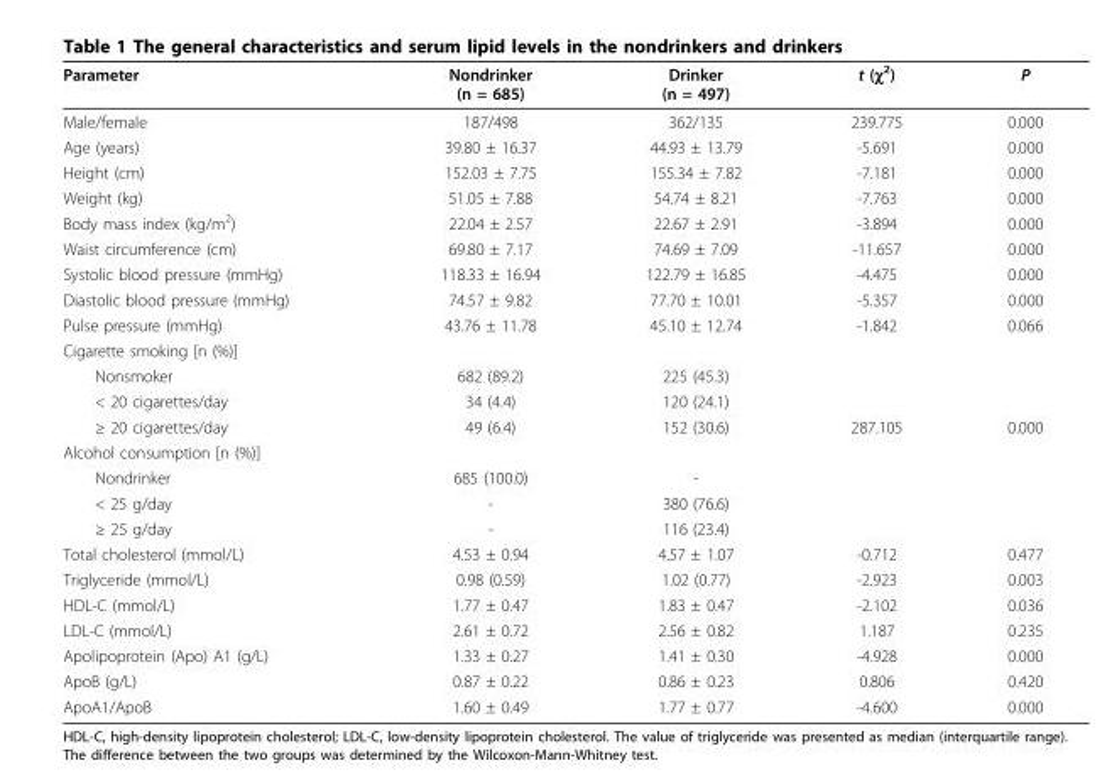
<table><thead><tr><td>Parameter</td><td>Nondrinker (n = 685)</td><td>Drinker (n = 497)</td><td>t (χ<sup>2</sup>)</td><td>P</td></tr></thead><tbody><tr><td>Male/female</td><td>187/498</td><td>362/135</td><td>239.775</td><td>0.000</td></tr><tr><td>Age (years)</td><td>39.80 ± 16.37</td><td>44.93 ± 13.79</td><td>-5.691</td><td>0.000</td></tr><tr><td>Height (cm)</td><td>152.03 ± 7.75</td><td>155.34 ± 7.82</td><td>-7.181</td><td>0.000</td></tr><tr><td>Weight (kg)</td><td>51.05 ± 7.88</td><td>54.74 ± 8.21</td><td>-7.763</td><td>0.000</td></tr><tr><td>Body mass index (kg/m<sup>2</sup>)</td><td>22.04 ± 2.57</td><td>22.67 ± 2.91</td><td>-3.894</td><td>0.000</td></tr><tr><td>Waist circumference (cm)</td><td>69.80 ± 7.17</td><td>74.69 ± 7.09</td><td>-11.657</td><td>0.000</td></tr><tr><td>Systolic blood pressure (mmHg)</td><td>118.33 ± 16.94</td><td>122.79 ± 16.85</td><td>-4.475</td><td>0.000</td></tr><tr><td>Diastolic blood pressure (mmHg)</td><td>74.57 ± 9.82</td><td>77.70 ± 10.01</td><td>-5.357</td><td>0.000</td></tr><tr><td>Pulse pressure (mmHg)</td><td>43.76 ± 11.78</td><td>45.10 ± 12.74</td><td>-1.842</td><td>0.066</td></tr><tr><td colspan="5">Cigarette smoking [n (%)]</td></tr><tr><td>Nonsmoker</td><td>682 (89.2)</td><td>225 (45.3)</td><td></td><td></td></tr><tr><td>&lt; 20 cigarettes/day</td><td>34 (4.4)</td><td>120 (24.1)</td><td></td><td></td></tr><tr><td>≥ 20 cigarettes/day</td><td>49 (6.4)</td><td>152 (30.6)</td><td>287.105</td><td>0.000</td></tr><tr><td colspan="5">Alcohol consumption [n (%)]</td></tr><tr><td>Nondrinker</td><td>685 (100.0)</td><td>-</td><td></td><td></td></tr><tr><td>&lt; 25 g/day</td><td>-</td><td>380 (76.6)</td><td></td><td></td></tr><tr><td>≥ 25 g/day</td><td>-</td><td>116 (23.4)</td><td></td><td></td></tr><tr><td>Total cholesterol (mmol/L)</td><td>4.53 ± 0.94</td><td>4.57 ± 1.07</td><td>-0.712</td><td>0.477</td></tr><tr><td>Triglyceride (mmol/L)</td><td>0.98 (0.59)</td><td>1.02 (0.77)</td><td>-2.923</td><td>0.003</td></tr><tr><td>HDL-C (mmol/L)</td><td>1.77 ± 0.47</td><td>1.83 ± 0.47</td><td>-2.102</td><td>0.036</td></tr><tr><td>LDL-C (mmol/L)</td><td>2.61 ± 0.72</td><td>2.56 ± 0.82</td><td>1.187</td><td>0.235</td></tr><tr><td>Apolipoprotein (Apo) A1 (g/L)</td><td>1.33 ± 0.27</td><td>1.41 ± 0.30</td><td>-4.928</td><td>0.000</td></tr><tr><td>ApoB (g/L)</td><td>0.87 ± 0.22</td><td>0.86 ± 0.23</td><td>0.806</td><td>0.420</td></tr><tr><td>ApoA1/ApoB</td><td>1.60 ± 0.49</td><td>1.77 ± 0.77</td><td>-4.600</td><td>0.000</td></tr></tbody></table>